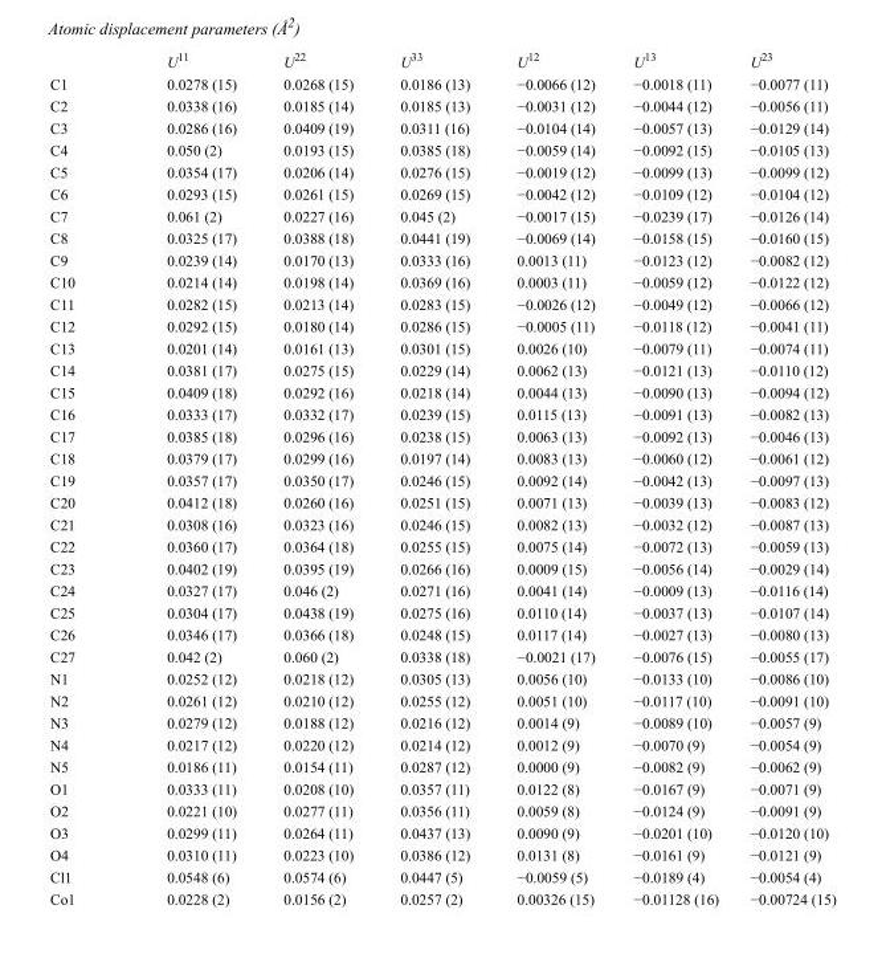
<table><thead><tr><td></td><td>U<sup>11</sup></td><td>U<sup>22</sup></td><td>U<sup>33</sup></td><td>U<sup>12</sup></td><td>U<sup>13</sup></td><td>U<sup>23</sup></td></tr></thead><tbody><tr><td>C1</td><td>0.0278 (15)</td><td>0.0268 (15)</td><td>0.0186 (13)</td><td>−0.0066 (12)</td><td>−0.0018 (11)</td><td>−0.0077 (11)</td></tr><tr><td>C2</td><td>0.0338 (16)</td><td>0.0185 (14)</td><td>0.0185 (13)</td><td>−0.0031 (12)</td><td>−0.0044 (12)</td><td>−0.0056 (11)</td></tr><tr><td>C3</td><td>0.0286 (16)</td><td>0.0409 (19)</td><td>0.0311 (16)</td><td>−0.0104 (14)</td><td>−0.0057 (13)</td><td>−0.0129 (14)</td></tr><tr><td>C4</td><td>0.050 (2)</td><td>0.0193 (15)</td><td>0.0385 (18)</td><td>−0.0059 (14)</td><td>−0.0092 (15)</td><td>−0.0105 (13)</td></tr><tr><td>C5</td><td>0.0354 (17)</td><td>0.0206 (14)</td><td>0.0276 (15)</td><td>−0.0019 (12)</td><td>−0.0099 (13)</td><td>−0.0099 (12)</td></tr><tr><td>C6</td><td>0.0293 (15)</td><td>0.0261 (15)</td><td>0.0269 (15)</td><td>−0.0042 (12)</td><td>−0.0109 (12)</td><td>−0.0104 (12)</td></tr><tr><td>C7</td><td>0.061 (2)</td><td>0.0227 (16)</td><td>0.045 (2)</td><td>−0.0017 (15)</td><td>−0.0239 (17)</td><td>−0.0126 (14)</td></tr><tr><td>C8</td><td>0.0325 (17)</td><td>0.0388 (18)</td><td>0.0441 (19)</td><td>−0.0069 (14)</td><td>−0.0158 (15)</td><td>−0.0160 (15)</td></tr><tr><td>C9</td><td>0.0239 (14)</td><td>0.0170 (13)</td><td>0.0333 (16)</td><td>0.0013 (11)</td><td>−0.0123 (12)</td><td>−0.0082 (12)</td></tr><tr><td>C10</td><td>0.0214 (14)</td><td>0.0198 (14)</td><td>0.0369 (16)</td><td>0.0003 (11)</td><td>−0.0059 (12)</td><td>−0.0122 (12)</td></tr><tr><td>C11</td><td>0.0282 (15)</td><td>0.0213 (14)</td><td>0.0283 (15)</td><td>−0.0026 (12)</td><td>−0.0049 (12)</td><td>−0.0066 (12)</td></tr><tr><td>C12</td><td>0.0292 (15)</td><td>0.0180 (14)</td><td>0.0286 (15)</td><td>−0.0005 (11)</td><td>−0.0118 (12)</td><td>−0.0041 (11)</td></tr><tr><td>C13</td><td>0.0201 (14)</td><td>0.0161 (13)</td><td>0.0301 (15)</td><td>0.0026 (10)</td><td>−0.0079 (11)</td><td>−0.0074 (11)</td></tr><tr><td>C14</td><td>0.0381 (17)</td><td>0.0275 (15)</td><td>0.0229 (14)</td><td>0.0062 (13)</td><td>−0.0121 (13)</td><td>−0.0110 (12)</td></tr><tr><td>C15</td><td>0.0409 (18)</td><td>0.0292 (16)</td><td>0.0218 (14)</td><td>0.0044 (13)</td><td>−0.0090 (13)</td><td>−0.0094 (12)</td></tr><tr><td>C16</td><td>0.0333 (17)</td><td>0.0332 (17)</td><td>0.0239 (15)</td><td>0.0115 (13)</td><td>−0.0091 (13)</td><td>−0.0082 (13)</td></tr><tr><td>C17</td><td>0.0385 (18)</td><td>0.0296 (16)</td><td>0.0238 (15)</td><td>0.0063 (13)</td><td>−0.0092 (13)</td><td>−0.0046 (13)</td></tr><tr><td>C18</td><td>0.0379 (17)</td><td>0.0299 (16)</td><td>0.0197 (14)</td><td>0.0083 (13)</td><td>−0.0060 (12)</td><td>−0.0061 (12)</td></tr><tr><td>C19</td><td>0.0357 (17)</td><td>0.0350 (17)</td><td>0.0246 (15)</td><td>0.0092 (14)</td><td>−0.0042 (13)</td><td>−0.0097 (13)</td></tr><tr><td>C20</td><td>0.0412 (18)</td><td>0.0260 (16)</td><td>0.0251 (15)</td><td>0.0071 (13)</td><td>−0.0039 (13)</td><td>−0.0083 (12)</td></tr><tr><td>C21</td><td>0.0308 (16)</td><td>0.0323 (16)</td><td>0.0246 (15)</td><td>0.0082 (13)</td><td>−0.0032 (12)</td><td>−0.0087 (13)</td></tr><tr><td>C22</td><td>0.0360 (17)</td><td>0.0364 (18)</td><td>0.0255 (15)</td><td>0.0075 (14)</td><td>−0.0072 (13)</td><td>−0.0059 (13)</td></tr><tr><td>C23</td><td>0.0402 (19)</td><td>0.0395 (19)</td><td>0.0266 (16)</td><td>0.0009 (15)</td><td>−0.0056 (14)</td><td>−0.0029 (14)</td></tr><tr><td>C24</td><td>0.0327 (17)</td><td>0.046 (2)</td><td>0.0271 (16)</td><td>0.0041 (14)</td><td>−0.0009 (13)</td><td>−0.0116 (14)</td></tr><tr><td>C25</td><td>0.0304 (17)</td><td>0.0438 (19)</td><td>0.0275 (16)</td><td>0.0110 (14)</td><td>−0.0037 (13)</td><td>−0.0107 (14)</td></tr><tr><td>C26</td><td>0.0346 (17)</td><td>0.0366 (18)</td><td>0.0248 (15)</td><td>0.0117 (14)</td><td>−0.0027 (13)</td><td>−0.0080 (13)</td></tr><tr><td>C27</td><td>0.042 (2)</td><td>0.060 (2)</td><td>0.0338 (18)</td><td>−0.0021 (17)</td><td>−0.0076 (15)</td><td>−0.0055 (17)</td></tr><tr><td>N1</td><td>0.0252 (12)</td><td>0.0218 (12)</td><td>0.0305 (13)</td><td>0.0056 (10)</td><td>−0.0133 (10)</td><td>−0.0086 (10)</td></tr><tr><td>N2</td><td>0.0261 (12)</td><td>0.0210 (12)</td><td>0.0255 (12)</td><td>0.0051 (10)</td><td>−0.0117 (10)</td><td>−0.0091 (10)</td></tr><tr><td>N3</td><td>0.0279 (12)</td><td>0.0188 (12)</td><td>0.0216 (12)</td><td>0.0014 (9)</td><td>−0.0089 (10)</td><td>−0.0057 (9)</td></tr><tr><td>N4</td><td>0.0217 (12)</td><td>0.0220 (12)</td><td>0.0214 (12)</td><td>0.0012 (9)</td><td>−0.0070 (9)</td><td>−0.0054 (9)</td></tr><tr><td>N5</td><td>0.0186 (11)</td><td>0.0154 (11)</td><td>0.0287 (12)</td><td>0.0000 (9)</td><td>−0.0082 (9)</td><td>−0.0062 (9)</td></tr><tr><td>O1</td><td>0.0333 (11)</td><td>0.0208 (10)</td><td>0.0357 (11)</td><td>0.0122 (8)</td><td>−0.0167 (9)</td><td>−0.0071 (9)</td></tr><tr><td>O2</td><td>0.0221 (10)</td><td>0.0277 (11)</td><td>0.0356 (11)</td><td>0.0059 (8)</td><td>−0.0124 (9)</td><td>−0.0091 (9)</td></tr><tr><td>O3</td><td>0.0299 (11)</td><td>0.0264 (11)</td><td>0.0437 (13)</td><td>0.0090 (9)</td><td>−0.0201 (10)</td><td>−0.0120 (10)</td></tr><tr><td>O4</td><td>0.0310 (11)</td><td>0.0223 (10)</td><td>0.0386 (12)</td><td>0.0131 (8)</td><td>−0.0161 (9)</td><td>−0.0121 (9)</td></tr><tr><td>Cl1</td><td>0.0548 (6)</td><td>0.0574 (6)</td><td>0.0447 (5)</td><td>−0.0059 (5)</td><td>−0.0189 (4)</td><td>−0.0054 (4)</td></tr><tr><td>Co1</td><td>0.0228 (2)</td><td>0.0156 (2)</td><td>0.0257 (2)</td><td>0.00326 (15)</td><td>−0.01128 (16)</td><td>−0.00724 (15)</td></tr></tbody></table>